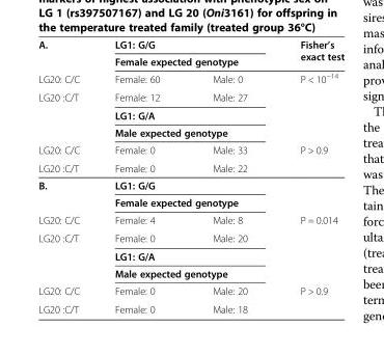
<table><tbody><tr><td rowspan="2">A.</td><td colspan="2">LG1: G/G</td><td rowspan="2">Fisher’s exact test</td></tr><tr><td colspan="2">Female expected genotype</td></tr><tr><td>LG20: C/C</td><td>Female: 60</td><td>Male: 0</td><td rowspan="2">P &lt; 10<sup>−14</sup></td></tr><tr><td rowspan="3">LG20 :C/T</td><td>Female: 12</td><td>Male: 27</td></tr><tr><td colspan="2">LG1: G/A</td><td rowspan="2"></td></tr><tr><td colspan="2">Male expected genotype</td></tr><tr><td>LG20: C/C</td><td>Female: 0</td><td>Male: 33</td><td rowspan="2">P &gt; 0.9</td></tr><tr><td>LG20 :C/T</td><td>Female: 0</td><td>Male: 22</td></tr><tr><td rowspan="2">B.</td><td colspan="2">LG1: G/G</td><td rowspan="2"></td></tr><tr><td colspan="2">Female expected genotype</td></tr><tr><td>LG20: C/C</td><td>Female: 4</td><td>Male: 8</td><td rowspan="2">P = 0.014</td></tr><tr><td rowspan="3">LG20 :C/T</td><td>Female: 0</td><td>Male: 20</td></tr><tr><td colspan="2">LG1: G/A</td><td rowspan="2"></td></tr><tr><td colspan="2">Male expected genotype</td></tr><tr><td>LG20: C/C</td><td>Female: 0</td><td>Male: 20</td><td rowspan="2">P &gt; 0.9</td></tr><tr><td>LG20 :C/T</td><td>Female: 0</td><td>Male: 18</td></tr></tbody></table>